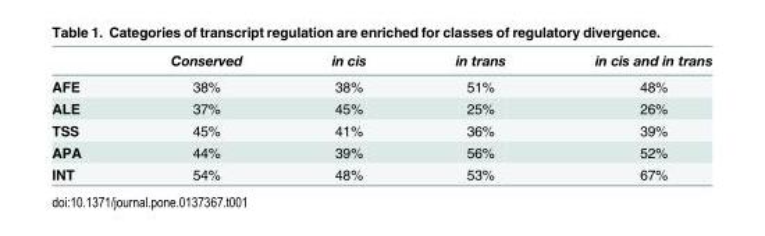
<table><thead><tr><td></td><td>Conserved</td><td>in cis</td><td>in trans</td><td>in cis and in trans</td></tr></thead><tbody><tr><td>AFE</td><td>38%</td><td>38%</td><td>51%</td><td>48%</td></tr><tr><td>ALE</td><td>37%</td><td>45%</td><td>25%</td><td>26%</td></tr><tr><td>TSS</td><td>45%</td><td>41%</td><td>36%</td><td>39%</td></tr><tr><td>APA</td><td>44%</td><td>39%</td><td>56%</td><td>52%</td></tr><tr><td>INT</td><td>54%</td><td>48%</td><td>53%</td><td>67%</td></tr></tbody></table>